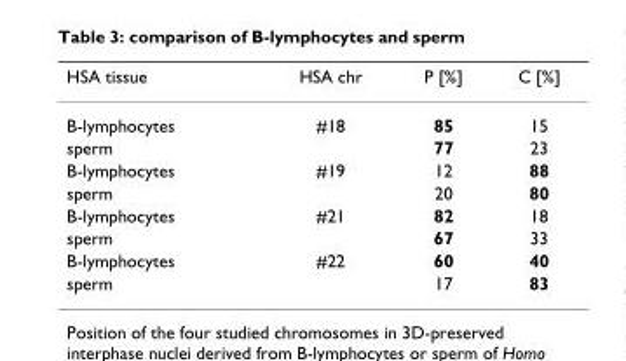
<table><thead><tr><td>HSA tissue</td><td>HSA chr</td><td>P [%]</td><td>C [%]</td></tr></thead><tbody><tr><td>B-lymphocytes</td><td>#18</td><td>85</td><td>15</td></tr><tr><td>sperm</td><td></td><td>77</td><td>23</td></tr><tr><td>B-lymphocytes</td><td>#19</td><td>12</td><td>88</td></tr><tr><td>sperm</td><td></td><td>20</td><td>80</td></tr><tr><td>B-lymphocytes</td><td>#21</td><td>82</td><td>18</td></tr><tr><td>sperm</td><td></td><td>67</td><td>33</td></tr><tr><td>B-lymphocytes</td><td>#22</td><td>60</td><td>40</td></tr><tr><td>sperm</td><td></td><td>17</td><td>83</td></tr></tbody></table>